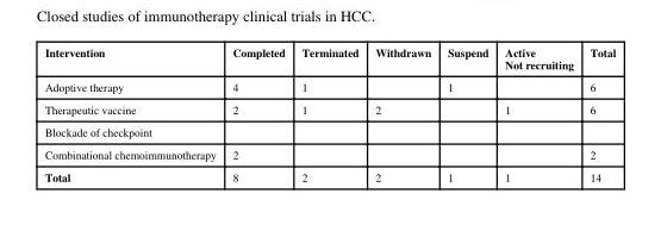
<table><thead><tr><td>Intervention</td><td>Completed</td><td>Terminated</td><td>Withdrawn</td><td>Suspend</td><td>Active Not recruiting</td><td>Total</td></tr></thead><tbody><tr><td>Adoptive therapy</td><td>4</td><td>1</td><td></td><td>1</td><td></td><td>6</td></tr><tr><td>Therapeutic vaccine</td><td>2</td><td>1</td><td>2</td><td></td><td>1</td><td>6</td></tr><tr><td colspan="7">Blockade of checkpoint</td></tr><tr><td>Combinational chemoimmunotherapy</td><td>2</td><td></td><td></td><td></td><td></td><td>2</td></tr><tr><td>Total</td><td>8</td><td>2</td><td>2</td><td>1</td><td>1</td><td>14</td></tr></tbody></table>